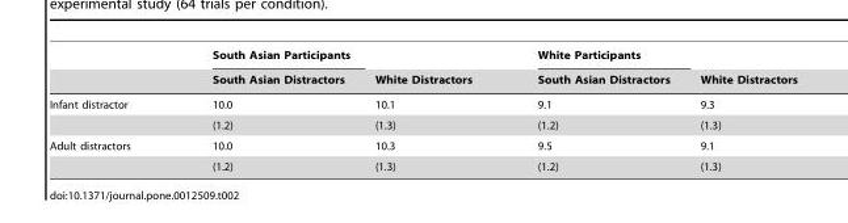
<table><thead><tr><td rowspan="2"></td><td rowspan="2">South Asian Participants South Asian Distractors</td><td rowspan="2">White Distractors</td><td rowspan="2">White Participants South Asian Distractors</td><td rowspan="2">White Distractors</td></tr><tr></tr></thead><tbody><tr><td rowspan="2">Infant distractor</td><td>10.0</td><td>10.1</td><td>9.1</td><td>9.3</td></tr><tr><td>(1.2)</td><td>(1.3)</td><td>(1.2)</td><td>(1.3)</td></tr><tr><td rowspan="2">Adult distractors</td><td>10.0</td><td>10.3</td><td>9.5</td><td>9.1</td></tr><tr><td>(1.2)</td><td>(1.3)</td><td>(1.2)</td><td>(1.3)</td></tr></tbody></table>